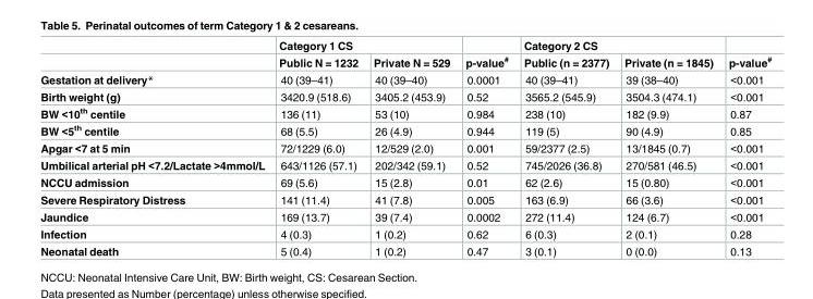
<table><thead><tr><td rowspan="2"></td><td colspan="2">Category 1 CS</td><td rowspan="2">p-value<sup>#</sup></td><td colspan="2">Category 2 CS</td><td rowspan="2">p-value<sup>#</sup></td></tr><tr><td>Public N = 1232</td><td>Private N = 529</td><td>Public (n = 2377)</td><td>Private (n = 1845)</td></tr></thead><tbody><tr><td>Gestation at delivery*</td><td>40 (39–41)</td><td>40 (39–40)</td><td>0.0001</td><td>40 (39–41)</td><td>39 (38–40)</td><td>&lt;0.001</td></tr><tr><td>Birth weight (g)</td><td>3420.9 (518.6)</td><td>3405.2 (453.9)</td><td>0.52</td><td>3565.2 (545.9)</td><td>3504.3 (474.1)</td><td>&lt;0.001</td></tr><tr><td>BW &lt;10<sup>th</sup> centile</td><td>136 (11)</td><td>53 (10)</td><td>0.984</td><td>238 (10)</td><td>182 (9.9)</td><td>0.87</td></tr><tr><td>BW &lt;5<sup>th</sup> centile</td><td>68 (5.5)</td><td>26 (4.9)</td><td>0.944</td><td>119 (5)</td><td>90 (4.9)</td><td>0.85</td></tr><tr><td>Apgar &lt;7 at 5 min</td><td>72/1229 (6.0)</td><td>12/529 (2.0)</td><td>0.001</td><td>59/2377 (2.5)</td><td>13/1845 (0.7)</td><td>&lt;0.001</td></tr><tr><td>Umbilical arterial pH &lt;7.2/Lactate &gt;4mmol/L</td><td>643/1126 (57.1)</td><td>202/342 (59.1)</td><td>0.52</td><td>745/2026 (36.8)</td><td>270/581 (46.5)</td><td>&lt;0.001</td></tr><tr><td>NCCU admission</td><td>69 (5.6)</td><td>15 (2.8)</td><td>0.01</td><td>62 (2.6)</td><td>15 (0.80)</td><td>&lt;0.001</td></tr><tr><td>Severe Respiratory Distress</td><td>141 (11.4)</td><td>41 (7.8)</td><td>0.005</td><td>163 (6.9)</td><td>66 (3.6)</td><td>&lt;0.001</td></tr><tr><td>Jaundice</td><td>169 (13.7)</td><td>39 (7.4)</td><td>0.0002</td><td>272 (11.4)</td><td>124 (6.7)</td><td>&lt;0.001</td></tr><tr><td>Infection</td><td>4 (0.3)</td><td>1 (0.2)</td><td>0.62</td><td>6 (0.3)</td><td>2 (0.1)</td><td>0.28</td></tr><tr><td>Neonatal death</td><td>5 (0.4)</td><td>1 (0.2)</td><td>0.47</td><td>3 (0.1)</td><td>0 (0.0)</td><td>0.13</td></tr></tbody></table>